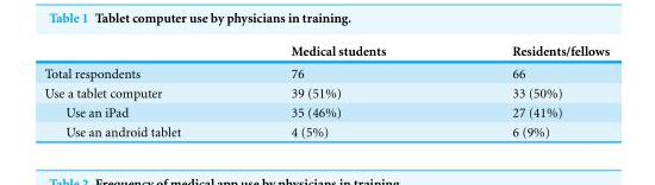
<table><thead><tr><td></td><td>Medical students</td><td>Residents/fellows</td></tr></thead><tbody><tr><td>Total respondents</td><td>76</td><td>66</td></tr><tr><td>Use a tablet computer</td><td>39 (51%)</td><td>33 (50%)</td></tr><tr><td>Use an iPad</td><td>35 (46%)</td><td>27 (41%)</td></tr><tr><td>Use an android tablet</td><td>4 (5%)</td><td>6 (9%)</td></tr></tbody></table>